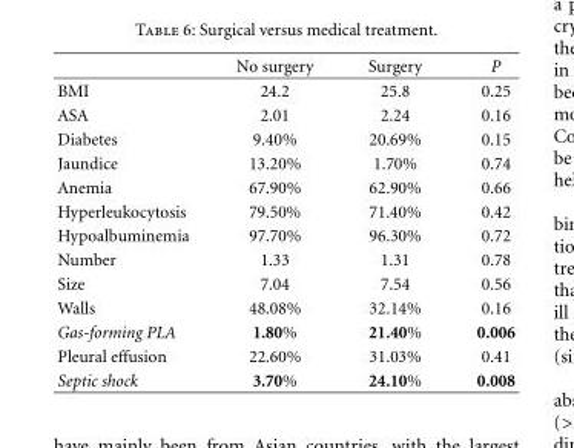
<table><thead><tr><td></td><td>No surgery</td><td>Surgery</td><td>P</td></tr></thead><tbody><tr><td>BMI</td><td>24.2</td><td>25.8</td><td>0.25</td></tr><tr><td>ASA</td><td>2.01</td><td>2.24</td><td>0.16</td></tr><tr><td>Diabetes</td><td>9.40%</td><td>20.69%</td><td>0.15</td></tr><tr><td>Jaundice</td><td>13.20%</td><td>1.70%</td><td>0.74</td></tr><tr><td>Anemia</td><td>67.90%</td><td>62.90%</td><td>0.66</td></tr><tr><td>Hyperleukocytosis</td><td>79.50%</td><td>71.40%</td><td>0.42</td></tr><tr><td>Hypoalbuminemia</td><td>97.70%</td><td>96.30%</td><td>0.72</td></tr><tr><td>Number</td><td>1.33</td><td>1.31</td><td>0.78</td></tr><tr><td>Size</td><td>7.04</td><td>7.54</td><td>0.56</td></tr><tr><td>Walls</td><td>48.08%</td><td>32.14%</td><td>0.16</td></tr><tr><td>Gas-forming PLA</td><td>1.80%</td><td>21.40%</td><td>0.006</td></tr><tr><td>Pleural effusion</td><td>22.60%</td><td>31.03%</td><td>0.41</td></tr><tr><td>Septic shock</td><td>3.70%</td><td>24.10%</td><td>0.008</td></tr></tbody></table>